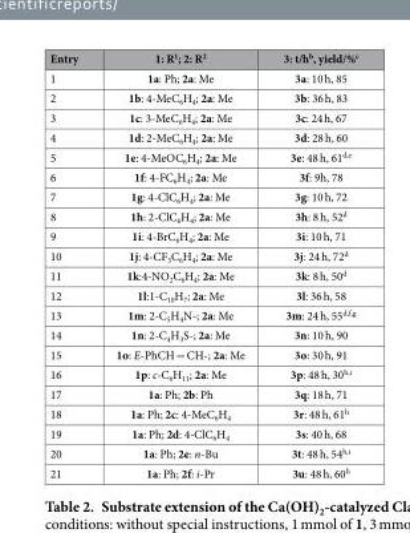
<table><thead><tr><td>Entry</td><td>1: R<sup>1</sup>; 2: R<sup>2</sup></td><td>3: t/h<sup>b</sup>, yield/%<sup>c</sup></td></tr></thead><tbody><tr><td>1</td><td>1a: Ph; 2a: Me</td><td>3a: 10 h, 85</td></tr><tr><td>2</td><td>1b: 4-MeC<sub>6</sub>H<sub>4</sub>; 2a: Me</td><td>3b: 36 h, 83</td></tr><tr><td>3</td><td>1c: 3-MeC<sub>6</sub>H<sub>4</sub>; 2a: Me</td><td>3c: 24 h, 67</td></tr><tr><td>4</td><td>1d: 2-MeC<sub>6</sub>H<sub>4</sub>; 2a: Me</td><td>3d: 28 h, 60</td></tr><tr><td>5</td><td>1e: 4-MeOC<sub>6</sub>H<sub>4</sub>; 2a: Me</td><td>3e: 48 h, 61d,<sup>e</sup></td></tr><tr><td>6</td><td>1f: 4-FC<sub>6</sub>H<sub>4</sub>; 2a: Me</td><td>3f: 9h, 78</td></tr><tr><td>7</td><td>1g: 4-ClC<sub>6</sub>H<sub>4</sub>; 2a: Me</td><td>3g: 10 h, 72</td></tr><tr><td>8</td><td>1h: 2-ClC<sub>6</sub>H<sub>4</sub>; 2a: Me</td><td>3h: 8 h, 52<sup>d</sup></td></tr><tr><td>9</td><td>1i: 4-BrC<sub>6</sub>H<sub>4</sub>; 2a: Me</td><td>3i: 10 h, 71</td></tr><tr><td>10</td><td>1j: 4-CF<sub>3</sub>C<sub>6</sub>H<sub>4</sub>; 2a: Me</td><td>3j: 24 h, 72<sup>d</sup></td></tr><tr><td>11</td><td>1k:4-NO<sub>2</sub>C<sub>6</sub>H<sub>4</sub>; 2a: Me</td><td>3k: 8 h, 50<sup>d</sup></td></tr><tr><td>12</td><td>1l:1-C<sub>10</sub>H<sub>7</sub>; 2a: Me</td><td>3l: 36 h, 58</td></tr><tr><td>13</td><td>1m: 2-C<sub>5</sub>H<sub>4</sub>N-; 2a: Me</td><td>3m: 24 h, 55d,f,<sup>g</sup></td></tr><tr><td>14</td><td>1n: 2-C<sub>4</sub>H<sub>3</sub>S-; 2a: Me</td><td>3n: 10 h, 90</td></tr><tr><td>15</td><td>1o: E-PhCH = CH-; 2a: Me</td><td>3o: 30 h, 91</td></tr><tr><td>16</td><td>1p: c-C<sub>6</sub>H<sub>11</sub>; 2a: Me</td><td>3p: 48 h, 30h,<sup>i</sup></td></tr><tr><td>17</td><td>1a: Ph; 2b: Ph</td><td>3q: 18 h, 71</td></tr><tr><td>18</td><td>1a: Ph; 2c: 4-MeC<sub>6</sub>H<sub>4</sub></td><td>3r: 48 h, 61<sup>h</sup></td></tr><tr><td>19</td><td>1a: Ph; 2d: 4-ClC<sub>6</sub>H<sub>4</sub></td><td>3s: 40 h, 68</td></tr><tr><td>20</td><td>1a: Ph; 2e: n-Bu</td><td>3t: 48 h, 54h,<sup>i</sup></td></tr><tr><td>21</td><td>1a: Ph; 2f: i-Pr</td><td>3u: 48 h, 60<sup>h</sup></td></tr></tbody></table>